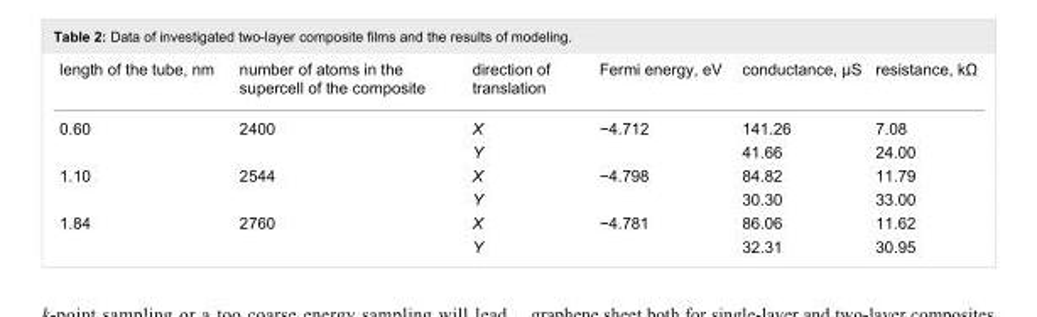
<table><tbody><tr><td>length of the tube, nm</td><td>number of atoms in the supercell of the composite</td><td>direction of translation</td><td>Fermi energy, eV</td><td>conductance, μS</td><td>resistance, kΩ</td></tr><tr><td rowspan="2">0.60</td><td rowspan="2">2400</td><td>X</td><td rowspan="2">−4.712</td><td>141.26</td><td>7.08</td></tr><tr><td>Y</td><td>41.66</td><td>24.00</td></tr><tr><td rowspan="2">1.10</td><td rowspan="2">2544</td><td>X</td><td rowspan="2">−4.798</td><td>84.82</td><td>11.79</td></tr><tr><td>Y</td><td>30.30</td><td>33.00</td></tr><tr><td rowspan="2">1.84</td><td rowspan="2">2760</td><td>X</td><td rowspan="2">−4.781</td><td>86.06</td><td>11.62</td></tr><tr><td>Y</td><td>32.31</td><td>30.95</td></tr></tbody></table>